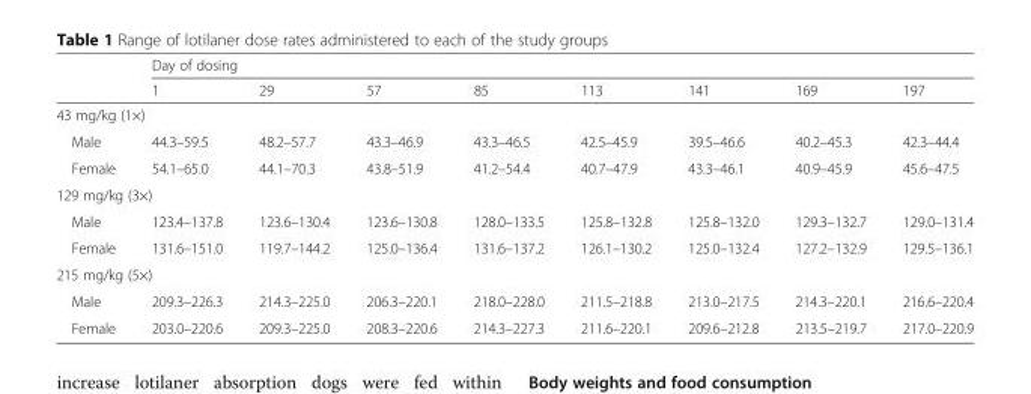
<table><thead><tr><td rowspan="2"></td><td colspan="8">Day of dosing</td></tr><tr><td>1</td><td>29</td><td>57</td><td>85</td><td>113</td><td>141</td><td>169</td><td>197</td></tr></thead><tbody><tr><td colspan="9">43 mg/kg (1×)</td></tr><tr><td>Male</td><td>44.3–59.5</td><td>48.2–57.7</td><td>43.3–46.9</td><td>43.3–46.5</td><td>42.5–45.9</td><td>39.5–46.6</td><td>40.2–45.3</td><td>42.3–44.4</td></tr><tr><td>Female</td><td>54.1–65.0</td><td>44.1–70.3</td><td>43.8–51.9</td><td>41.2–54.4</td><td>40.7–47.9</td><td>43.3–46.1</td><td>40.9–45.9</td><td>45.6–47.5</td></tr><tr><td colspan="9">129 mg/kg (3×)</td></tr><tr><td>Male</td><td>123.4–137.8</td><td>123.6–130.4</td><td>123.6–130.8</td><td>128.0–133.5</td><td>125.8–132.8</td><td>125.8–132.0</td><td>129.3–132.7</td><td>129.0–131.4</td></tr><tr><td>Female</td><td>131.6–151.0</td><td>119.7–144.2</td><td>125.0–136.4</td><td>131.6–137.2</td><td>126.1–130.2</td><td>125.0–132.4</td><td>127.2–132.9</td><td>129.5–136.1</td></tr><tr><td colspan="9">215 mg/kg (5×)</td></tr><tr><td>Male</td><td>209.3–226.3</td><td>214.3–225.0</td><td>206.3–220.1</td><td>218.0–228.0</td><td>211.5–218.8</td><td>213.0–217.5</td><td>214.3–220.1</td><td>216.6–220.4</td></tr><tr><td>Female</td><td>203.0–220.6</td><td>209.3–225.0</td><td>208.3–220.6</td><td>214.3–227.3</td><td>211.6–220.1</td><td>209.6–212.8</td><td>213.5–219.7</td><td>217.0–220.9</td></tr></tbody></table>